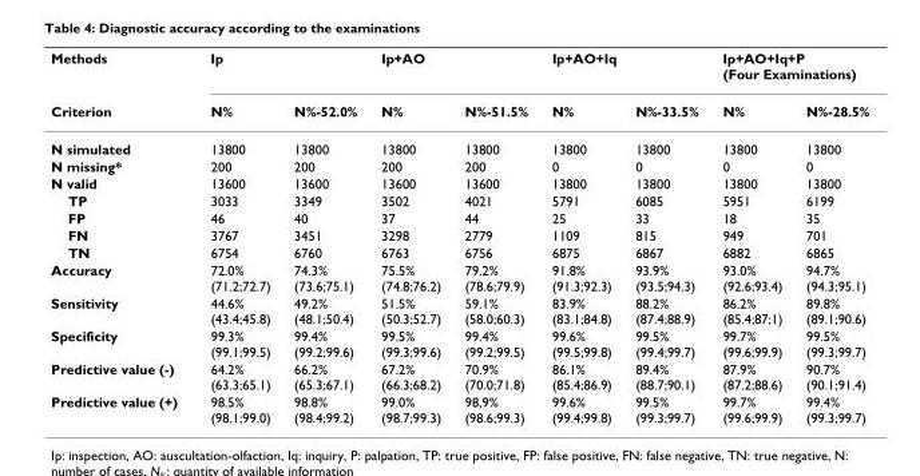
<table><thead><tr><td rowspan="2">Methods Criterion</td><td colspan="2">Ip</td><td colspan="2">Ip+AO</td><td colspan="2">Ip+AO+Iq</td><td colspan="2">Ip+AO+Iq+P (Four Examinations)</td></tr><tr><td>N%</td><td>N%-52.0%</td><td>N%</td><td>N%-51.5%</td><td>N%</td><td>N%-33.5%</td><td>N%</td><td>N%-28.5%</td></tr></thead><tbody><tr><td>N simulated</td><td>13800</td><td>13800</td><td>13800</td><td>13800</td><td>13800</td><td>13800</td><td>13800</td><td>13800</td></tr><tr><td>N missing*</td><td>200</td><td>200</td><td>200</td><td>200</td><td>0</td><td>0</td><td>0</td><td>0</td></tr><tr><td>N valid</td><td>13600</td><td>13600</td><td>13600</td><td>13600</td><td>13800</td><td>13800</td><td>13800</td><td>13800</td></tr><tr><td>TP</td><td>3033</td><td>3349</td><td>3502</td><td>4021</td><td>5791</td><td>6085</td><td>5951</td><td>6199</td></tr><tr><td>FP</td><td>46</td><td>40</td><td>37</td><td>44</td><td>25</td><td>33</td><td>18</td><td>35</td></tr><tr><td>FN</td><td>3767</td><td>3451</td><td>3298</td><td>2779</td><td>1109</td><td>815</td><td>949</td><td>701</td></tr><tr><td>TN</td><td>6754</td><td>6760</td><td>6763</td><td>6756</td><td>6875</td><td>6867</td><td>6882</td><td>6865</td></tr><tr><td>Accuracy</td><td>72.0% (71.2;72.7)</td><td>74.3% (73.6;75.1)</td><td>75.5% (74.8;76.2)</td><td>79.2% (78.6;79.9)</td><td>91.8% (91.3;92.3)</td><td>93.9% (93.5;94.3)</td><td>93.0% (92.6;93.4)</td><td>94.7% (94.3;95.1)</td></tr><tr><td>Sensitivity</td><td>44.6% (43.4;45.8)</td><td>49.2% (48.1;50.4)</td><td>51.5% (50.3;52.7)</td><td>59.1% (58.0;60.3)</td><td>83.9% (83.1;84.8)</td><td>88.2% (87.4;88.9)</td><td>86.2% (85.4;87;1)</td><td>89.8% (89.1;90.6)</td></tr><tr><td>Specificity</td><td>99.3% (99.1;99.5)</td><td>99.4% (99.2;99.6)</td><td>99.5% (99.3;99.6)</td><td>99.4% (99.2;99.5)</td><td>99.6% (99.5;99.8)</td><td>99.5% (99.4;99.7)</td><td>99.7% (99.6;99.9)</td><td>99.5% (99.3;99.7)</td></tr><tr><td>Predictive value (-)</td><td>64.2% (63.3;65.1)</td><td>66.2% (65.3;67.1)</td><td>67.2% (66.3;68.2)</td><td>70.9% (70.0;71.8)</td><td>86.1% (85.4;86.9)</td><td>89.4% (88.7;90.1)</td><td>87.9% (87.2;88.6)</td><td>90.7% (90.1;91.4)</td></tr><tr><td>Predictive value (+)</td><td>98.5% (98.1;99.0)</td><td>98.8% (98.4;99.2)</td><td>99.0% (98.7;99.3)</td><td>98,9% (98.6;99.3)</td><td>99.6% (99.4;99.8)</td><td>99.5% (99.3;99.7)</td><td>99.7% (99.6;99.9)</td><td>99.4% (99.3;99.7)</td></tr></tbody></table>